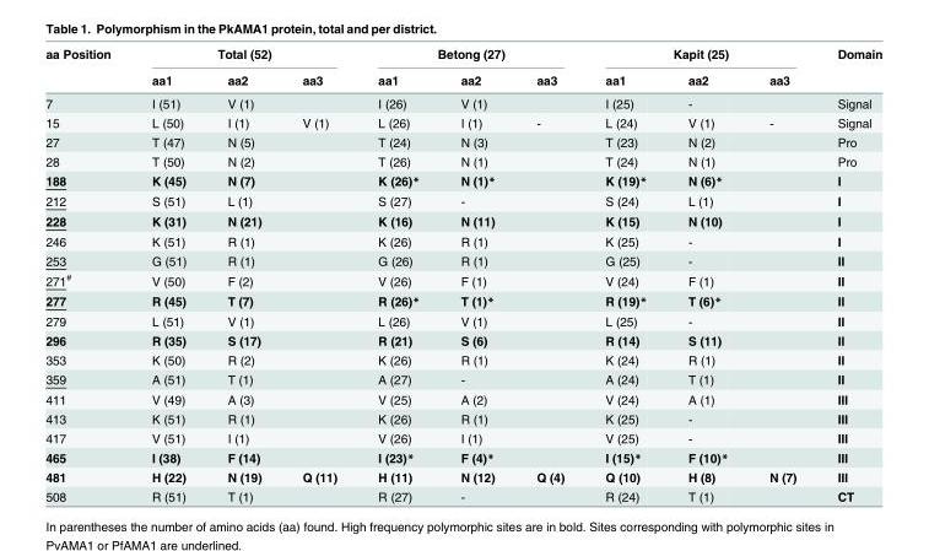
<table><thead><tr><td rowspan="2">aa Position</td><td colspan="3">Total (52)</td><td colspan="3">Betong (27)</td><td colspan="3">Kapit (25)</td><td rowspan="2">Domain</td></tr><tr><td>aa1</td><td>aa2</td><td>aa3</td><td>aa1</td><td>aa2</td><td>aa3</td><td>aa1</td><td>aa2</td><td>aa3</td></tr></thead><tbody><tr><td>7</td><td>I (51)</td><td>V (1)</td><td></td><td>I (26)</td><td>V (1)</td><td></td><td>I (25)</td><td>-</td><td></td><td>Signal</td></tr><tr><td>15</td><td>L (50)</td><td>I (1)</td><td>V (1)</td><td>L (26)</td><td>I (1)</td><td>-</td><td>L (24)</td><td>V (1)</td><td>-</td><td>Signal</td></tr><tr><td>27</td><td>T (47)</td><td>N (5)</td><td></td><td>T (24)</td><td>N (3)</td><td></td><td>T (23)</td><td>N (2)</td><td></td><td>Pro</td></tr><tr><td>28</td><td>T (50)</td><td>N (2)</td><td></td><td>T (26)</td><td>N (1)</td><td></td><td>T (24)</td><td>N (1)</td><td></td><td>Pro</td></tr><tr><td>188</td><td>K (45)</td><td>N (7)</td><td></td><td>K (26)*</td><td>N (1)*</td><td></td><td>K (19)*</td><td>N (6)*</td><td></td><td>I</td></tr><tr><td>212</td><td>S (51)</td><td>L (1)</td><td></td><td>S (27)</td><td>-</td><td></td><td>S (24)</td><td>L (1)</td><td></td><td>I</td></tr><tr><td>228</td><td>K (31)</td><td>N (21)</td><td></td><td>K (16)</td><td>N (11)</td><td></td><td>K (15)</td><td>N (10)</td><td></td><td>I</td></tr><tr><td>246</td><td>K (51)</td><td>R (1)</td><td></td><td>K (26)</td><td>R (1)</td><td></td><td>K (25)</td><td>-</td><td></td><td>I</td></tr><tr><td>253</td><td>G (51)</td><td>R (1)</td><td></td><td>G (26)</td><td>R (1)</td><td></td><td>G (25)</td><td>-</td><td></td><td>II</td></tr><tr><td>271<sup>#</sup></td><td>V (50)</td><td>F (2)</td><td></td><td>V (26)</td><td>F (1)</td><td></td><td>V (24)</td><td>F (1)</td><td></td><td>II</td></tr><tr><td>277</td><td>R (45)</td><td>T (7)</td><td></td><td>R (26)*</td><td>T (1)*</td><td></td><td>R (19)*</td><td>T (6)*</td><td></td><td>II</td></tr><tr><td>279</td><td>L (51)</td><td>V (1)</td><td></td><td>L (26)</td><td>V (1)</td><td></td><td>L (25)</td><td>-</td><td></td><td>II</td></tr><tr><td>296</td><td>R (35)</td><td>S (17)</td><td></td><td>R (21)</td><td>S (6)</td><td></td><td>R (14)</td><td>S (11)</td><td></td><td>II</td></tr><tr><td>353</td><td>K (50)</td><td>R (2)</td><td></td><td>K (26)</td><td>R (1)</td><td></td><td>K (24)</td><td>R (1)</td><td></td><td>II</td></tr><tr><td>359</td><td>A (51)</td><td>T (1)</td><td></td><td>A (27)</td><td>-</td><td></td><td>A (24)</td><td>T (1)</td><td></td><td>II</td></tr><tr><td>411</td><td>V (49)</td><td>A (3)</td><td></td><td>V (25)</td><td>A (2)</td><td></td><td>V (24)</td><td>A (1)</td><td></td><td>III</td></tr><tr><td>413</td><td>K (51)</td><td>R (1)</td><td></td><td>K (26)</td><td>R (1)</td><td></td><td>K (25)</td><td>-</td><td></td><td>III</td></tr><tr><td>417</td><td>V (51)</td><td>I (1)</td><td></td><td>V (26)</td><td>I (1)</td><td></td><td>V (25)</td><td>-</td><td></td><td>III</td></tr><tr><td>465</td><td>I (38)</td><td>F (14)</td><td></td><td>I (23)*</td><td>F (4)*</td><td></td><td>I (15)*</td><td>F (10)*</td><td></td><td>III</td></tr><tr><td>481</td><td>H (22)</td><td>N (19)</td><td>Q (11)</td><td>H (11)</td><td>N (12)</td><td>Q (4)</td><td>Q (10)</td><td>H (8)</td><td>N (7)</td><td>III</td></tr><tr><td>508</td><td>R (51)</td><td>T (1)</td><td></td><td>R (27)</td><td>-</td><td></td><td>R (24)</td><td>T (1)</td><td></td><td>CT</td></tr></tbody></table>